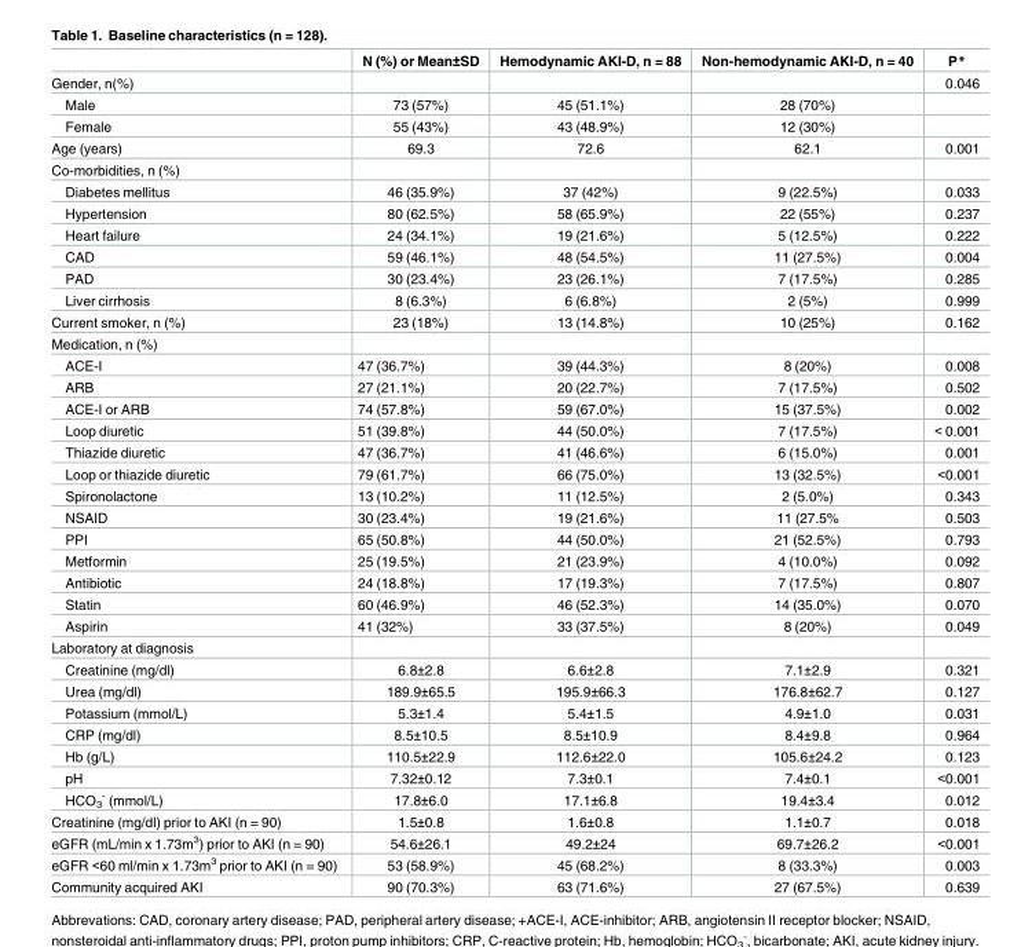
<table><thead><tr><td></td><td>N (%) or Mean±SD</td><td>Hemodynamic AKI-D, n = 88</td><td>Non-hemodynamic AKI-D, n = 40</td><td>P*</td></tr></thead><tbody><tr><td>Gender, n(%)</td><td></td><td></td><td></td><td>0.046</td></tr><tr><td>Male</td><td>73 (57%)</td><td>45 (51.1%)</td><td>28 (70%)</td><td></td></tr><tr><td>Female</td><td>55 (43%)</td><td>43 (48.9%)</td><td>12 (30%)</td><td></td></tr><tr><td>Age (years)</td><td>69.3</td><td>72.6</td><td>62.1</td><td>0.001</td></tr><tr><td colspan="5">Co-morbidities, n (%)</td></tr><tr><td>Diabetes mellitus</td><td>46 (35.9%)</td><td>37 (42%)</td><td>9 (22.5%)</td><td>0.033</td></tr><tr><td>Hypertension</td><td>80 (62.5%)</td><td>58 (65.9%)</td><td>22 (55%)</td><td>0.237</td></tr><tr><td>Heart failure</td><td>24 (34.1%)</td><td>19 (21.6%)</td><td>5 (12.5%)</td><td>0.222</td></tr><tr><td>CAD</td><td>59 (46.1%)</td><td>48 (54.5%)</td><td>11 (27.5%)</td><td>0.004</td></tr><tr><td>PAD</td><td>30 (23.4%)</td><td>23 (26.1%)</td><td>7 (17.5%)</td><td>0.285</td></tr><tr><td>Liver cirrhosis</td><td>8 (6.3%)</td><td>6 (6.8%)</td><td>2 (5%)</td><td>0.999</td></tr><tr><td>Current smoker, n (%)</td><td>23 (18%)</td><td>13 (14.8%)</td><td>10 (25%)</td><td>0.162</td></tr><tr><td colspan="5">Medication, n (%)</td></tr><tr><td>ACE-I</td><td>47 (36.7%)</td><td>39 (44.3%)</td><td>8 (20%)</td><td>0.008</td></tr><tr><td>ARB</td><td>27 (21.1%)</td><td>20 (22.7%)</td><td>7 (17.5%)</td><td>0.502</td></tr><tr><td>ACE-I or ARB</td><td>74 (57.8%)</td><td>59 (67.0%)</td><td>15 (37.5%)</td><td>0.002</td></tr><tr><td>Loop diuretic</td><td>51 (39.8%)</td><td>44 (50.0%)</td><td>7 (17.5%)</td><td>&lt; 0.001</td></tr><tr><td>Thiazide diuretic</td><td>47 (36.7%)</td><td>41 (46.6%)</td><td>6 (15.0%)</td><td>0.001</td></tr><tr><td>Loop or thiazide diuretic</td><td>79 (61.7%)</td><td>66 (75.0%)</td><td>13 (32.5%)</td><td>&lt;0.001</td></tr><tr><td>Spironolactone</td><td>13 (10.2%)</td><td>11 (12.5%)</td><td>2 (5.0%)</td><td>0.343</td></tr><tr><td>NSAID</td><td>30 (23.4%)</td><td>19 (21.6%)</td><td>11 (27.5%</td><td>0.503</td></tr><tr><td>PPI</td><td>65 (50.8%)</td><td>44 (50.0%)</td><td>21 (52.5%)</td><td>0.793</td></tr><tr><td>Metformin</td><td>25 (19.5%)</td><td>21 (23.9%)</td><td>4 (10.0%)</td><td>0.092</td></tr><tr><td>Antibiotic</td><td>24 (18.8%)</td><td>17 (19.3%)</td><td>7 (17.5%)</td><td>0.807</td></tr><tr><td>Statin</td><td>60 (46.9%)</td><td>46 (52.3%)</td><td>14 (35.0%)</td><td>0.070</td></tr><tr><td>Aspirin</td><td>41 (32%)</td><td>33 (37.5%)</td><td>8 (20%)</td><td>0.049</td></tr><tr><td colspan="5">Laboratory at diagnosis</td></tr><tr><td>Creatinine (mg/dl)</td><td>6.8±2.8</td><td>6.6±2.8</td><td>7.1±2.9</td><td>0.321</td></tr><tr><td>Urea (mg/dl)</td><td>189.9±65.5</td><td>195.9±66.3</td><td>176.8±62.7</td><td>0.127</td></tr><tr><td>Potassium (mmol/L)</td><td>5.3±1.4</td><td>5.4±1.5</td><td>4.9±1.0</td><td>0.031</td></tr><tr><td>CRP (mg/dl)</td><td>8.5±10.5</td><td>8.5±10.9</td><td>8.4±9.8</td><td>0.964</td></tr><tr><td>Hb (g/L)</td><td>110.5±22.9</td><td>112.6±22.0</td><td>105.6±24.2</td><td>0.123</td></tr><tr><td>pH</td><td>7.32±0.12</td><td>7.3±0.1</td><td>7.4±0.1</td><td>&lt;0.001</td></tr><tr><td>HCO<sub>3</sub> <sup>-</sup> (mmol/L)</td><td>17.8±6.0</td><td>17.1±6.8</td><td>19.4±3.4</td><td>0.012</td></tr><tr><td>Creatinine (mg/dl) prior to AKI (n = 90)</td><td>1.5±0.8</td><td>1.6±0.8</td><td>1.1±0.7</td><td>0.018</td></tr><tr><td>eGFR (mL/min x 1.73m<sup>3</sup>) prior to AKI (n = 90)</td><td>54.6±26.1</td><td>49.2±24</td><td>69.7±26.2</td><td>&lt;0.001</td></tr><tr><td>eGFR &lt;60 ml/min x 1.73m<sup>3</sup> prior to AKI (n = 90)</td><td>53 (58.9%)</td><td>45 (68.2%)</td><td>8 (33.3%)</td><td>0.003</td></tr><tr><td>Community acquired AKI</td><td>90 (70.3%)</td><td>63 (71.6%)</td><td>27 (67.5%)</td><td>0.639</td></tr></tbody></table>